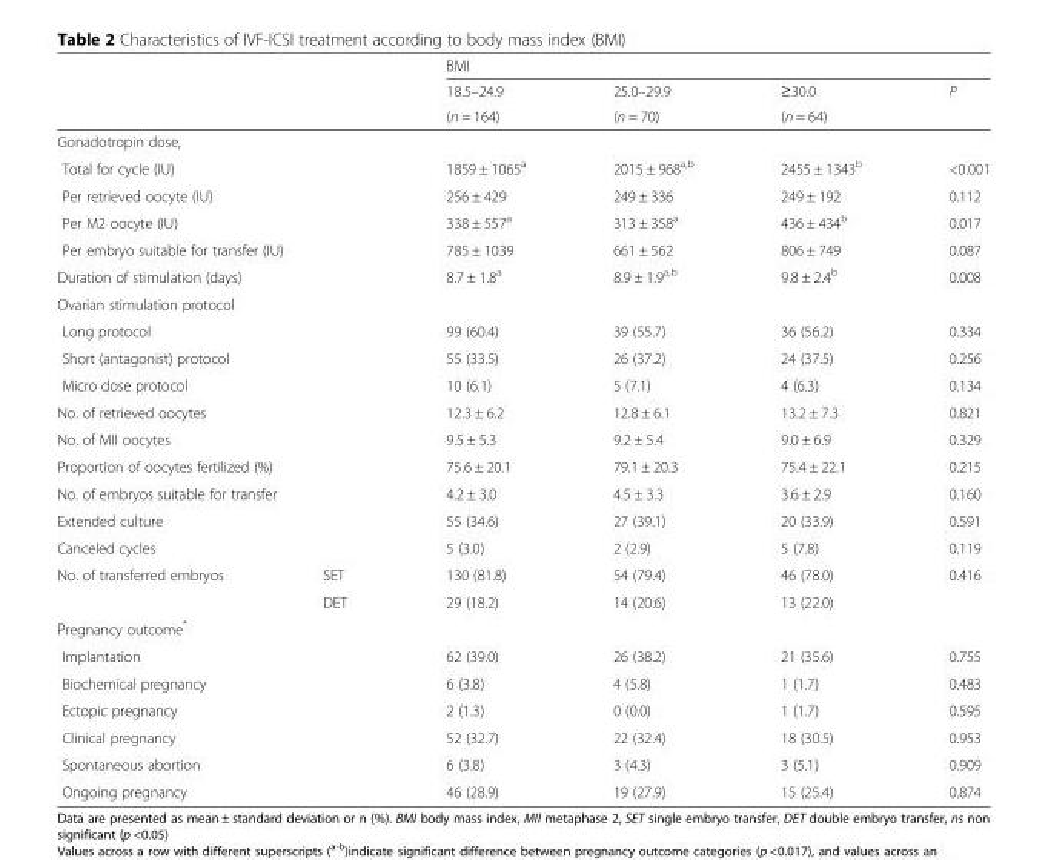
<table><thead><tr><td rowspan="3"></td><td rowspan="3"></td><td colspan="4">BMI</td></tr><tr><td rowspan="2">18.5–24.9 (n = 164)</td><td rowspan="2">25.0–29.9 (n = 70)</td><td rowspan="2">≥30.0 (n = 64)</td><td rowspan="2">P</td></tr><tr></tr></thead><tbody><tr><td colspan="6">Gonadotropin dose,</td></tr><tr><td colspan="2">Total for cycle (IU)</td><td>1859 ± 1065<sup>a</sup></td><td>2015 ± 968<sup>a,b</sup></td><td>2455 ± 1343<sup>b</sup></td><td>&lt;0.001</td></tr><tr><td colspan="2">Per retrieved oocyte (IU)</td><td>256 ± 429</td><td>249 ± 336</td><td>249 ± 192</td><td>0.112</td></tr><tr><td colspan="2">Per M2 oocyte (IU)</td><td>338 ± 557<sup>a</sup></td><td>313 ± 358<sup>a</sup></td><td>436 ± 434<sup>b</sup></td><td>0.017</td></tr><tr><td colspan="2">Per embryo suitable for transfer (IU)</td><td>785 ± 1039</td><td>661 ± 562</td><td>806 ± 749</td><td>0.087</td></tr><tr><td colspan="2">Duration of stimulation (days)</td><td>8.7 ± 1.8<sup>a</sup></td><td>8.9 ± 1.9<sup>a,b</sup></td><td>9.8 ± 2.4<sup>b</sup></td><td>0.008</td></tr><tr><td colspan="6">Ovarian stimulation protocol</td></tr><tr><td colspan="2">Long protocol</td><td>99 (60.4)</td><td>39 (55.7)</td><td>36 (56.2)</td><td>0.334</td></tr><tr><td colspan="2">Short (antagonist) protocol</td><td>55 (33.5)</td><td>26 (37.2)</td><td>24 (37.5)</td><td>0.256</td></tr><tr><td colspan="2">Micro dose protocol</td><td>10 (6.1)</td><td>5 (7.1)</td><td>4 (6.3)</td><td>0.134</td></tr><tr><td colspan="2">No. of retrieved oocytes</td><td>12.3 ± 6.2</td><td>12.8 ± 6.1</td><td>13.2 ± 7.3</td><td>0.821</td></tr><tr><td colspan="2">No. of MII oocytes</td><td>9.5 ± 5.3</td><td>9.2 ± 5.4</td><td>9.0 ± 6.9</td><td>0.329</td></tr><tr><td colspan="2">Proportion of oocytes fertilized (%)</td><td>75.6 ± 20.1</td><td>79.1 ± 20.3</td><td>75.4 ± 22.1</td><td>0.215</td></tr><tr><td colspan="2">No. of embryos suitable for transfer</td><td>4.2 ± 3.0</td><td>4.5 ± 3.3</td><td>3.6 ± 2.9</td><td>0.160</td></tr><tr><td colspan="2">Extended culture</td><td>55 (34.6)</td><td>27 (39.1)</td><td>20 (33.9)</td><td>0.591</td></tr><tr><td colspan="2">Canceled cycles</td><td>5 (3.0)</td><td>2 (2.9)</td><td>5 (7.8)</td><td>0.119</td></tr><tr><td rowspan="2">No. of transferred embryos</td><td>SET</td><td>130 (81.8)</td><td>54 (79.4)</td><td>46 (78.0)</td><td>0.416</td></tr><tr><td>DET</td><td>29 (18.2)</td><td>14 (20.6)</td><td>13 (22.0)</td><td></td></tr><tr><td colspan="6">Pregnancy outcome*</td></tr><tr><td colspan="2">Implantation</td><td>62 (39.0)</td><td>26 (38.2)</td><td>21 (35.6)</td><td>0.755</td></tr><tr><td colspan="2">Biochemical pregnancy</td><td>6 (3.8)</td><td>4 (5.8)</td><td>1 (1.7)</td><td>0.483</td></tr><tr><td colspan="2">Ectopic pregnancy</td><td>2 (1.3)</td><td>0 (0.0)</td><td>1 (1.7)</td><td>0.595</td></tr><tr><td colspan="2">Clinical pregnancy</td><td>52 (32.7)</td><td>22 (32.4)</td><td>18 (30.5)</td><td>0.953</td></tr><tr><td colspan="2">Spontaneous abortion</td><td>6 (3.8)</td><td>3 (4.3)</td><td>3 (5.1)</td><td>0.909</td></tr><tr><td colspan="2">Ongoing pregnancy</td><td>46 (28.9)</td><td>19 (27.9)</td><td>15 (25.4)</td><td>0.874</td></tr></tbody></table>